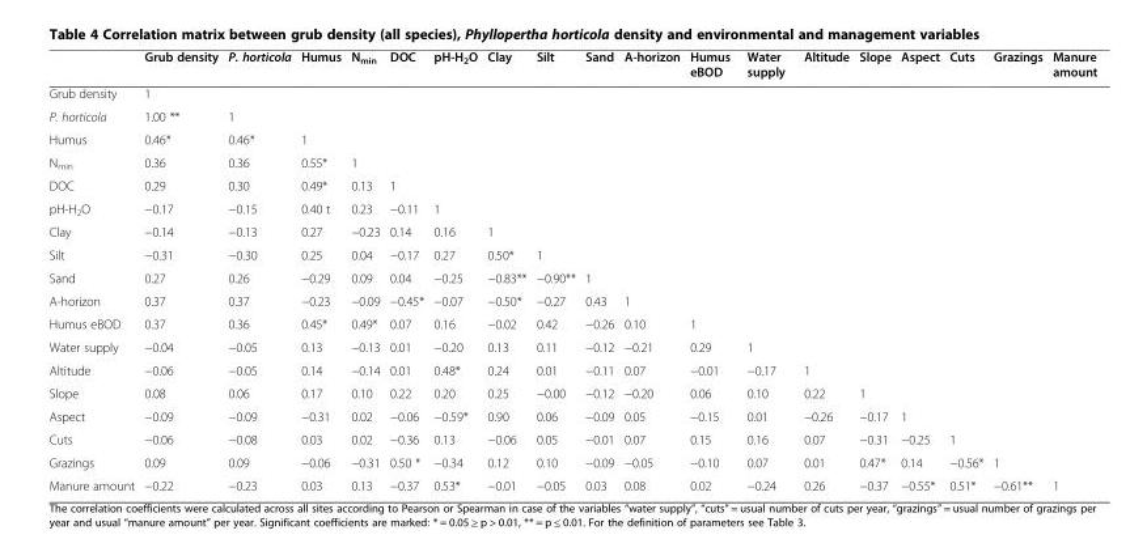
<table><thead><tr><td></td><td>Grub density</td><td>P. horticola</td><td>Humus</td><td>N<sub>min</sub></td><td>DOC</td><td>pH-H<sub>2</sub>O</td><td>Clay</td><td>Silt</td><td>Sand</td><td>A-horizon</td><td>Humus eBOD</td><td>Water supply</td><td>Altitude</td><td>Slope</td><td>Aspect</td><td>Cuts</td><td>Grazings</td><td>Manure amount</td></tr></thead><tbody><tr><td>Grub density</td><td>1</td><td></td><td></td><td></td><td></td><td></td><td></td><td></td><td></td><td></td><td></td><td></td><td></td><td></td><td></td><td></td><td></td><td></td></tr><tr><td>P. horticola</td><td>1.00 **</td><td>1</td><td></td><td></td><td></td><td></td><td></td><td></td><td></td><td></td><td></td><td></td><td></td><td></td><td></td><td></td><td></td><td></td></tr><tr><td>Humus</td><td>0.46*</td><td>0.46*</td><td>1</td><td></td><td></td><td></td><td></td><td></td><td></td><td></td><td></td><td></td><td></td><td></td><td></td><td></td><td></td><td></td></tr><tr><td>N<sub>min</sub></td><td>0.36</td><td>0.36</td><td>0.55*</td><td>1</td><td></td><td></td><td></td><td></td><td></td><td></td><td></td><td></td><td></td><td></td><td></td><td></td><td></td><td></td></tr><tr><td>DOC</td><td>0.29</td><td>0.30</td><td>0.49*</td><td>0.13</td><td>1</td><td></td><td></td><td></td><td></td><td></td><td></td><td></td><td></td><td></td><td></td><td></td><td></td><td></td></tr><tr><td>pH-H<sub>2</sub>O</td><td>−0.17</td><td>−0.15</td><td>0.40 t</td><td>0.23</td><td>−0.11</td><td>1</td><td></td><td></td><td></td><td></td><td></td><td></td><td></td><td></td><td></td><td></td><td></td><td></td></tr><tr><td>Clay</td><td>−0.14</td><td>−0.13</td><td>0.27</td><td>−0.23</td><td>0.14</td><td>0.16</td><td>1</td><td></td><td></td><td></td><td></td><td></td><td></td><td></td><td></td><td></td><td></td><td></td></tr><tr><td>Silt</td><td>−0.31</td><td>−0.30</td><td>0.25</td><td>0.04</td><td>−0.17</td><td>0.27</td><td>0.50*</td><td>1</td><td></td><td></td><td></td><td></td><td></td><td></td><td></td><td></td><td></td><td></td></tr><tr><td>Sand</td><td>0.27</td><td>0.26</td><td>−0.29</td><td>0.09</td><td>0.04</td><td>−0.25</td><td>−0.83**</td><td>−0.90**</td><td>1</td><td></td><td></td><td></td><td></td><td></td><td></td><td></td><td></td><td></td></tr><tr><td>A-horizon</td><td>0.37</td><td>0.37</td><td>−0.23</td><td>−0.09</td><td>−0.45*</td><td>−0.07</td><td>−0.50*</td><td>−0.27</td><td>0.43</td><td>1</td><td></td><td></td><td></td><td></td><td></td><td></td><td></td><td></td></tr><tr><td>Humus eBOD</td><td>0.37</td><td>0.36</td><td>0.45*</td><td>0.49*</td><td>0.07</td><td>0.16</td><td>−0.02</td><td>0.42</td><td>−0.26</td><td>0.10</td><td>1</td><td></td><td></td><td></td><td></td><td></td><td></td><td></td></tr><tr><td>Water supply</td><td>−0.04</td><td>−0.05</td><td>0.13</td><td>−0.13</td><td>0.01</td><td>−0.20</td><td>0.13</td><td>0.11</td><td>−0.12</td><td>−0.21</td><td>0.29</td><td>1</td><td></td><td></td><td></td><td></td><td></td><td></td></tr><tr><td>Altitude</td><td>−0.06</td><td>−0.05</td><td>0.14</td><td>−0.14</td><td>0.01</td><td>0.48*</td><td>0.24</td><td>0.01</td><td>−0.11</td><td>0.07</td><td>−0.01</td><td>−0.17</td><td>1</td><td></td><td></td><td></td><td></td><td></td></tr><tr><td>Slope</td><td>0.08</td><td>0.06</td><td>0.17</td><td>0.10</td><td>0.22</td><td>0.20</td><td>0.25</td><td>−0.00</td><td>−0.12</td><td>−0.20</td><td>0.06</td><td>0.10</td><td>0.22</td><td>1</td><td></td><td></td><td></td><td></td></tr><tr><td>Aspect</td><td>−0.09</td><td>−0.09</td><td>−0.31</td><td>0.02</td><td>−0.06</td><td>−0.59*</td><td>0.90</td><td>0.06</td><td>−0.09</td><td>0.05</td><td>−0.15</td><td>0.01</td><td>−0.26</td><td>−0.17</td><td>1</td><td></td><td></td><td></td></tr><tr><td>Cuts</td><td>−0.06</td><td>−0.08</td><td>0.03</td><td>0.02</td><td>−0.36</td><td>0.13</td><td>−0.06</td><td>0.05</td><td>−0.01</td><td>0.07</td><td>0.15</td><td>0.16</td><td>0.07</td><td>−0.31</td><td>−0.25</td><td>1</td><td></td><td></td></tr><tr><td>Grazings</td><td>0.09</td><td>0.09</td><td>−0.06</td><td>−0.31</td><td>0.50 *</td><td>−0.34</td><td>0.12</td><td>0.10</td><td>−0.09</td><td>−0.05</td><td>−0.10</td><td>0.07</td><td>0.01</td><td>0.47*</td><td>0.14</td><td>−0.56*</td><td>1</td><td></td></tr><tr><td>Manure amount</td><td>−0.22</td><td>−0.23</td><td>0.03</td><td>0.13</td><td>−0.37</td><td>0.53*</td><td>−0.01</td><td>−0.05</td><td>0.03</td><td>0.08</td><td>0.02</td><td>−0.24</td><td>0.26</td><td>−0.37</td><td>−0.55*</td><td>0.51*</td><td>−0.61**</td><td>1</td></tr></tbody></table>